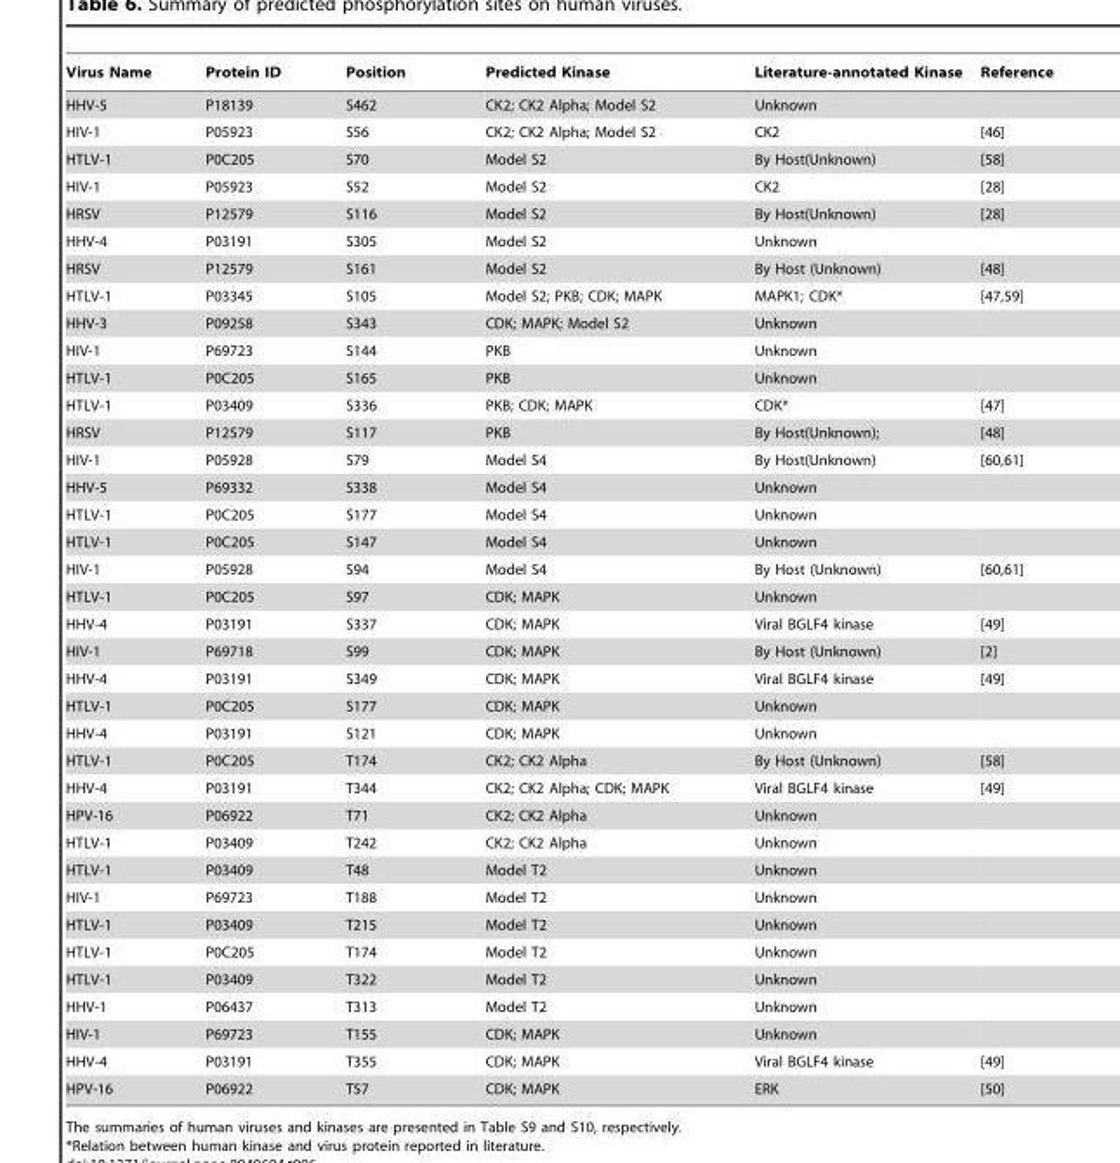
<table><thead><tr><td>Virus Name</td><td>Protein ID</td><td>Position</td><td>Predicted Kinase</td><td>Literature-annotated Kinase</td><td>Reference</td></tr></thead><tbody><tr><td>HHV-5</td><td>P18139</td><td>S462</td><td>CK2; CK2 Alpha; Model S2</td><td>Unknown</td><td></td></tr><tr><td>HIV-1</td><td>P05923</td><td>S56</td><td>CK2; CK2 Alpha; Model S2</td><td>CK2</td><td>[46]</td></tr><tr><td>HTLV-1</td><td>P0C205</td><td>S70</td><td>Model S2</td><td>By Host(Unknown)</td><td>[58]</td></tr><tr><td>HIV-1</td><td>P05923</td><td>S52</td><td>Model S2</td><td>CK2</td><td>[28]</td></tr><tr><td>HRSV</td><td>P12579</td><td>S116</td><td>Model S2</td><td>By Host(Unknown)</td><td>[28]</td></tr><tr><td>HHV-4</td><td>P03191</td><td>S305</td><td>Model S2</td><td>Unknown</td><td></td></tr><tr><td>HRSV</td><td>P12579</td><td>S161</td><td>Model S2</td><td>By Host (Unknown)</td><td>[48]</td></tr><tr><td>HTLV-1</td><td>P03345</td><td>S105</td><td>Model S2; PKB; CDK; MAPK</td><td>MAPK1; CDK*</td><td>[47,59]</td></tr><tr><td>HHV-3</td><td>P09258</td><td>S343</td><td>CDK; MAPK; Model S2</td><td>Unknown</td><td></td></tr><tr><td>HIV-1</td><td>P69723</td><td>S144</td><td>PKB</td><td>Unknown</td><td></td></tr><tr><td>HTLV-1</td><td>P0C205</td><td>S165</td><td>PKB</td><td>Unknown</td><td></td></tr><tr><td>HTLV-1</td><td>P03409</td><td>S336</td><td>PKB; CDK; MAPK</td><td>CDK*</td><td>[47]</td></tr><tr><td>HRSV</td><td>P12579</td><td>S117</td><td>PKB</td><td>By Host(Unknown);</td><td>[48]</td></tr><tr><td>HIV-1</td><td>P05928</td><td>S79</td><td>Model S4</td><td>By Host(Unknown)</td><td>[60,61]</td></tr><tr><td>HHV-5</td><td>P69332</td><td>S338</td><td>Model S4</td><td>Unknown</td><td></td></tr><tr><td>HTLV-1</td><td>P0C205</td><td>S177</td><td>Model S4</td><td>Unknown</td><td></td></tr><tr><td>HTLV-1</td><td>P0C205</td><td>S147</td><td>Model S4</td><td>Unknown</td><td></td></tr><tr><td>HIV-1</td><td>P05928</td><td>S94</td><td>Model S4</td><td>By Host (Unknown)</td><td>[60,61]</td></tr><tr><td>HTLV-1</td><td>P0C205</td><td>S97</td><td>CDK; MAPK</td><td>Unknown</td><td></td></tr><tr><td>HHV-4</td><td>P03191</td><td>S337</td><td>CDK; MAPK</td><td>Viral BGLF4 kinase</td><td>[49]</td></tr><tr><td>HIV-1</td><td>P69718</td><td>S99</td><td>CDK; MAPK</td><td>By Host (Unknown)</td><td>[2]</td></tr><tr><td>HHV-4</td><td>P03191</td><td>S349</td><td>CDK; MAPK</td><td>Viral BGLF4 kinase</td><td>[49]</td></tr><tr><td>HTLV-1</td><td>P0C205</td><td>S177</td><td>CDK; MAPK</td><td>Unknown</td><td></td></tr><tr><td>HHV-4</td><td>P03191</td><td>S121</td><td>CDK; MAPK</td><td>Unknown</td><td></td></tr><tr><td>HTLV-1</td><td>P0C205</td><td>T174</td><td>CK2; CK2 Alpha</td><td>By Host (Unknown)</td><td>[58]</td></tr><tr><td>HHV-4</td><td>P03191</td><td>T344</td><td>CK2; CK2 Alpha; CDK; MAPK</td><td>Viral BGLF4 kinase</td><td>[49]</td></tr><tr><td>HPV-16</td><td>P06922</td><td>T71</td><td>CK2; CK2 Alpha</td><td>Unknown</td><td></td></tr><tr><td>HTLV-1</td><td>P03409</td><td>T242</td><td>CK2; CK2 Alpha</td><td>Unknown</td><td></td></tr><tr><td>HTLV-1</td><td>P03409</td><td>T48</td><td>Model T2</td><td>Unknown</td><td></td></tr><tr><td>HIV-1</td><td>P69723</td><td>T188</td><td>Model T2</td><td>Unknown</td><td></td></tr><tr><td>HTLV-1</td><td>P03409</td><td>T215</td><td>Model T2</td><td>Unknown</td><td></td></tr><tr><td>HTLV-1</td><td>P0C205</td><td>T174</td><td>Model T2</td><td>Unknown</td><td></td></tr><tr><td>HTLV-1</td><td>P03409</td><td>T322</td><td>Model T2</td><td>Unknown</td><td></td></tr><tr><td>HHV-1</td><td>P06437</td><td>T313</td><td>Model T2</td><td>Unknown</td><td></td></tr><tr><td>HIV-1</td><td>P69723</td><td>T155</td><td>CDK; MAPK</td><td>Unknown</td><td></td></tr><tr><td>HHV-4</td><td>P03191</td><td>T355</td><td>CDK; MAPK</td><td>Viral BGLF4 kinase</td><td>[49]</td></tr><tr><td>HPV-16</td><td>P06922</td><td>T57</td><td>CDK; MAPK</td><td>ERK</td><td>[50]</td></tr></tbody></table>